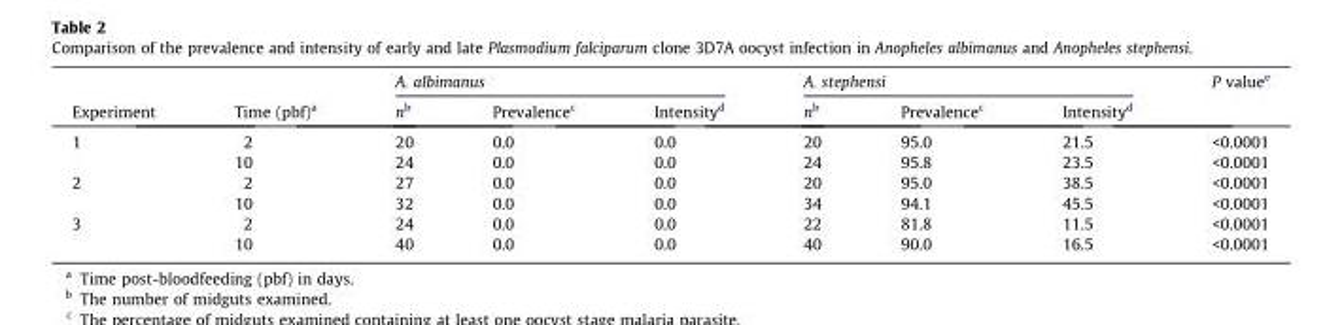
<table><thead><tr><td rowspan="2">Experiment</td><td rowspan="2">Time (pbf)<sup>a</sup></td><td colspan="3">A. albimanus</td><td colspan="3">A. stephensi</td><td rowspan="2">P value<sup>e</sup></td></tr><tr><td>n<sup>b</sup></td><td>Prevalence<sup>c</sup></td><td>Intensity<sup>d</sup></td><td>n<sup>b</sup></td><td>Prevalence<sup>c</sup></td><td>Intensity<sup>d</sup></td></tr></thead><tbody><tr><td rowspan="2">1</td><td>2</td><td>20</td><td>0.0</td><td>0.0</td><td>20</td><td>95.0</td><td>21.5</td><td>&lt;0.0001</td></tr><tr><td>10</td><td>24</td><td>0.0</td><td>0.0</td><td>24</td><td>95.8</td><td>23.5</td><td>&lt;0.0001</td></tr><tr><td rowspan="2">2</td><td>2</td><td>27</td><td>0.0</td><td>0.0</td><td>20</td><td>95.0</td><td>38.5</td><td>&lt;0.0001</td></tr><tr><td>10</td><td>32</td><td>0.0</td><td>0.0</td><td>34</td><td>94.1</td><td>45.5</td><td>&lt;0.0001</td></tr><tr><td rowspan="2">3</td><td>2</td><td>24</td><td>0.0</td><td>0.0</td><td>22</td><td>81.8</td><td>11.5</td><td>&lt;0.0001</td></tr><tr><td>10</td><td>40</td><td>0.0</td><td>0.0</td><td>40</td><td>90.0</td><td>16.5</td><td>&lt;0.0001</td></tr></tbody></table>